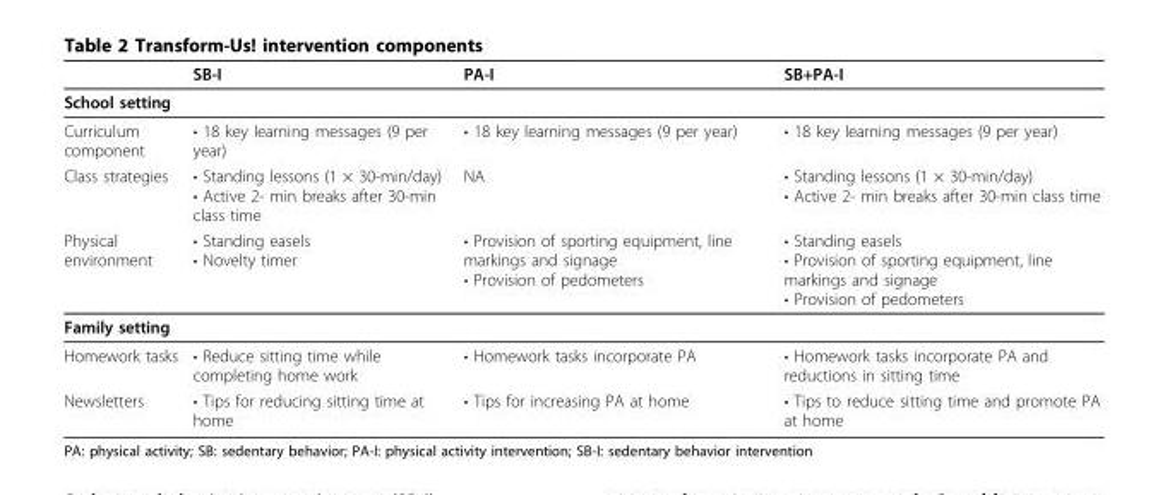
<table><thead><tr><td></td><td>SB-I</td><td>PA-I</td><td>SB+PA-I</td></tr></thead><tbody><tr><td colspan="4">School setting</td></tr><tr><td>Curriculum component</td><td>• 18 key learning messages (9 per year)</td><td>• 18 key learning messages (9 per year)</td><td>• 18 key learning messages (9 per year)</td></tr><tr><td>Class strategies</td><td>• Standing lessons (1 × 30-min/day) • Active 2- min breaks after 30-min class time</td><td>NA</td><td>• Standing lessons (1 × 30-min/day) • Active 2- min breaks after 30-min class time</td></tr><tr><td>Physical environment</td><td>• Standing easels • Novelty timer</td><td>• Provision of sporting equipment, line markings and signage • Provision of pedometers</td><td>• Standing easels • Provision of sporting equipment, line markings and signage • Provision of pedometers</td></tr><tr><td colspan="4">Family setting</td></tr><tr><td>Homework tasks</td><td>• Reduce sitting time while completing home work</td><td>• Homework tasks incorporate PA</td><td>• Homework tasks incorporate PA and reductions in sitting time</td></tr><tr><td>Newsletters</td><td>• Tips for reducing sitting time at home</td><td>• Tips for increasing PA at home</td><td>• Tips to reduce sitting time and promote PA at home</td></tr></tbody></table>